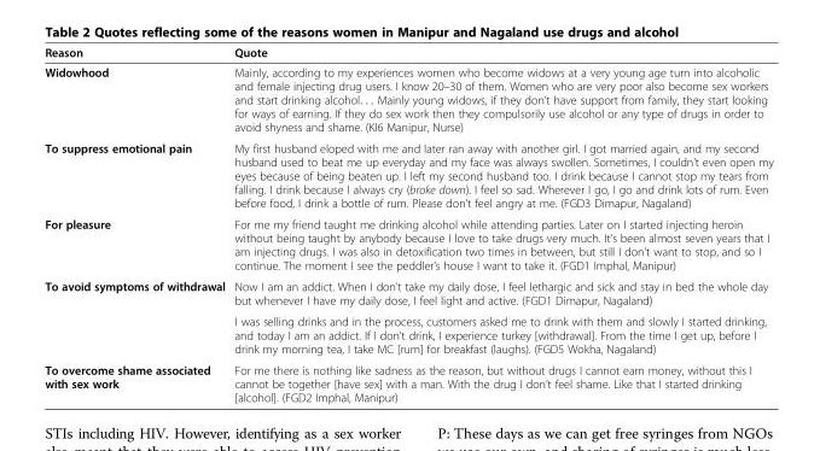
<table><thead><tr><td>Reason</td><td>Quote</td></tr></thead><tbody><tr><td>Widowhood</td><td>Mainly, according to my experiences women who become widows at a very young age turn into alcoholic and female injecting drug users. I know 20–30 of them. Women who are very poor also become sex workers and start drinking alcohol. . . Mainly young widows, if they don’t have support from family, they start looking for ways of earning. If they do sex work then they compulsorily use alcohol or any type of drugs in order to avoid shyness and shame. (KI6 Manipur, Nurse)</td></tr><tr><td>To suppress emotional pain</td><td>My first husband eloped with me and later ran away with another girl. I got married again, and my second husband used to beat me up everyday and my face was always swollen. Sometimes, I couldn’t even open my eyes because of being beaten up. I left my second husband too. I drink because I cannot stop my tears from falling. I drink because I always cry (broke down). I feel so sad. Wherever I go, I go and drink lots of rum. Even before food, I drink a bottle of rum. Please don’t feel angry at me. (FGD3 Dimapur, Nagaland)</td></tr><tr><td>For pleasure</td><td>For me my friend taught me drinking alcohol while attending parties. Later on I started injecting heroin without being taught by anybody because I love to take drugs very much. It’s been almost seven years that I am injecting drugs. I was also in detoxification two times in between, but still I don’t want to stop, and so I continue. The moment I see the peddler’s house I want to take it. (FGD1 Imphal, Manipur)</td></tr><tr><td rowspan="2">To avoid symptoms of withdrawal</td><td>Now I am an addict. When I don’t take my daily dose, I feel lethargic and sick and stay in bed the whole day but whenever I have my daily dose, I feel light and active. (FGD1 Dimapur, Nagaland)</td></tr><tr><td>I was selling drinks and in the process, customers asked me to drink with them and slowly I started drinking, and today I am an addict. If I don’t drink, I experience turkey [withdrawal]. From the time I get up, before I drink my morning tea, I take MC [rum] for breakfast (laughs). (FGD5 Wokha, Nagaland)</td></tr><tr><td>To overcome shame associated with sex work</td><td>For me there is nothing like sadness as the reason, but without drugs I cannot earn money, without this I cannot be together [have sex] with a man. With the drug I don’t feel shame. Like that I started drinking [alcohol]. (FGD2 Imphal, Manipur)</td></tr></tbody></table>